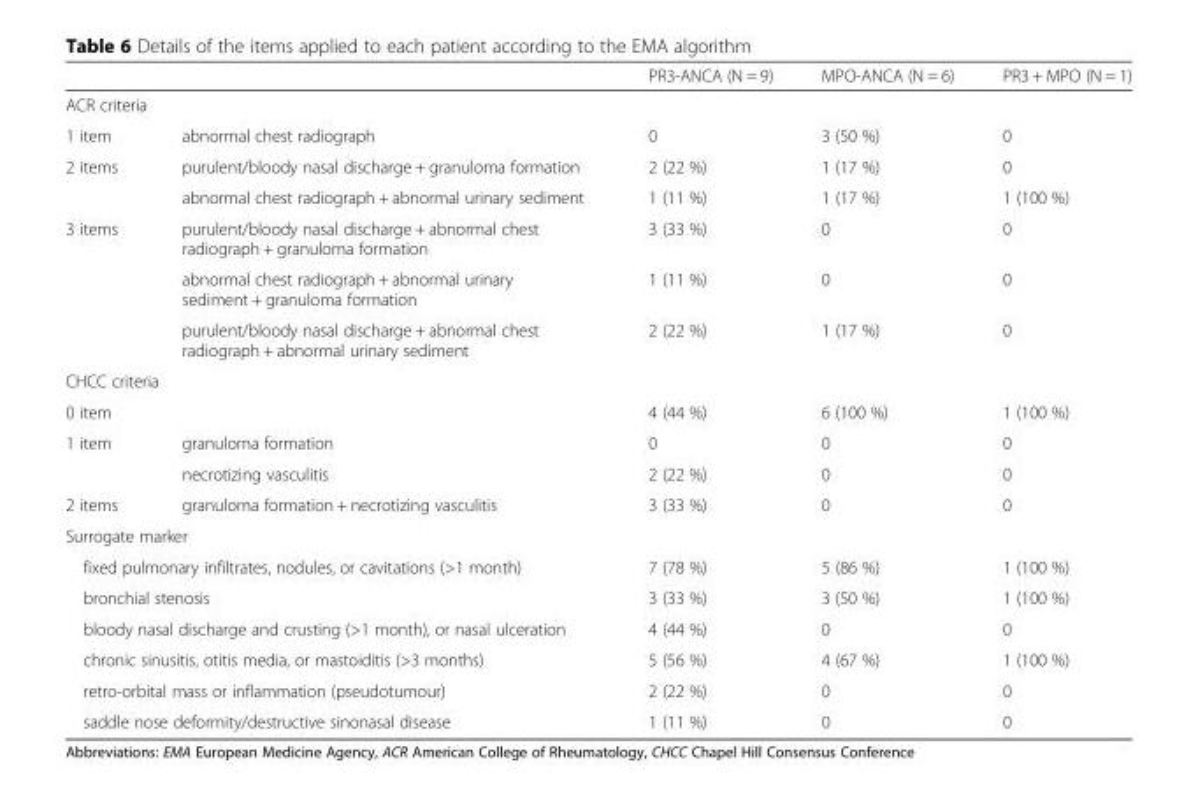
<table><thead><tr><td></td><td></td><td>PR3-ANCA (N = 9)</td><td>MPO-ANCA (N = 6)</td><td>PR3 + MPO (N = 1)</td></tr></thead><tbody><tr><td colspan="5">ACR criteria</td></tr><tr><td>1 item</td><td>abnormal chest radiograph</td><td>0</td><td>3 (50 %)</td><td>0</td></tr><tr><td rowspan="2">2 items</td><td>purulent/bloody nasal discharge + granuloma formation</td><td>2 (22 %)</td><td>1 (17 %)</td><td>0</td></tr><tr><td>abnormal chest radiograph + abnormal urinary sediment</td><td>1 (11 %)</td><td>1 (17 %)</td><td>1 (100 %)</td></tr><tr><td rowspan="3">3 items</td><td>purulent/bloody nasal discharge + abnormal chest radiograph + granuloma formation</td><td>3 (33 %)</td><td>0</td><td>0</td></tr><tr><td>abnormal chest radiograph + abnormal urinary sediment + granuloma formation</td><td>1 (11 %)</td><td>0</td><td>0</td></tr><tr><td>purulent/bloody nasal discharge + abnormal chest radiograph + abnormal urinary sediment</td><td>2 (22 %)</td><td>1 (17 %)</td><td>0</td></tr><tr><td colspan="5">CHCC criteria</td></tr><tr><td>0 item</td><td></td><td>4 (44 %)</td><td>6 (100 %)</td><td>1 (100 %)</td></tr><tr><td rowspan="2">1 item</td><td>granuloma formation</td><td>0</td><td>0</td><td>0</td></tr><tr><td>necrotizing vasculitis</td><td>2 (22 %)</td><td>0</td><td>0</td></tr><tr><td>2 items</td><td>granuloma formation + necrotizing vasculitis</td><td>3 (33 %)</td><td>0</td><td>0</td></tr><tr><td colspan="5">Surrogate marker</td></tr><tr><td colspan="2">fixed pulmonary infiltrates, nodules, or cavitations (&gt;1 month)</td><td>7 (78 %)</td><td>5 (86 %)</td><td>1 (100 %)</td></tr><tr><td colspan="2">bronchial stenosis</td><td>3 (33 %)</td><td>3 (50 %)</td><td>1 (100 %)</td></tr><tr><td colspan="2">bloody nasal discharge and crusting (&gt;1 month), or nasal ulceration</td><td>4 (44 %)</td><td>0</td><td>0</td></tr><tr><td colspan="2">chronic sinusitis, otitis media, or mastoiditis (&gt;3 months)</td><td>5 (56 %)</td><td>4 (67 %)</td><td>1 (100 %)</td></tr><tr><td colspan="2">retro-orbital mass or inflammation (pseudotumour)</td><td>2 (22 %)</td><td>0</td><td>0</td></tr><tr><td colspan="2">saddle nose deformity/destructive sinonasal disease</td><td>1 (11 %)</td><td>0</td><td>0</td></tr></tbody></table>